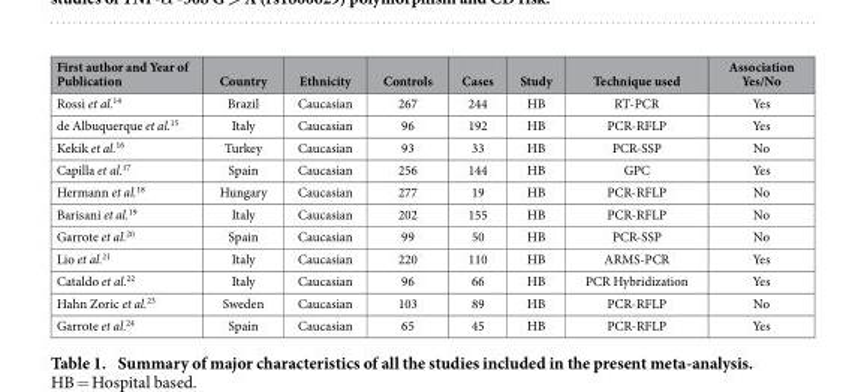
<table><thead><tr><td>First author and Year of Publication</td><td>Country</td><td>Ethnicity</td><td>Controls</td><td>Cases</td><td>Study</td><td>Technique used</td><td>Association Yes/No</td></tr></thead><tbody><tr><td>Rossi et al.<sup>14</sup></td><td>Brazil</td><td>Caucasian</td><td>267</td><td>244</td><td>HB</td><td>RT-PCR</td><td>Yes</td></tr><tr><td>de Albuquerque et al.<sup>15</sup></td><td>Italy</td><td>Caucasian</td><td>96</td><td>192</td><td>HB</td><td>PCR-RFLP</td><td>Yes</td></tr><tr><td>Kekik et al.<sup>16</sup></td><td>Turkey</td><td>Caucasian</td><td>93</td><td>33</td><td>HB</td><td>PCR-SSP</td><td>No</td></tr><tr><td>Capilla et al.<sup>17</sup></td><td>Spain</td><td>Caucasian</td><td>256</td><td>144</td><td>HB</td><td>GPC</td><td>Yes</td></tr><tr><td>Hermann et al.<sup>18</sup></td><td>Hungary</td><td>Caucasian</td><td>277</td><td>19</td><td>HB</td><td>PCR-RFLP</td><td>No</td></tr><tr><td>Barisani et al.<sup>19</sup></td><td>Italy</td><td>Caucasian</td><td>202</td><td>155</td><td>HB</td><td>PCR-RFLP</td><td>No</td></tr><tr><td>Garrote et al.<sup>20</sup></td><td>Spain</td><td>Caucasian</td><td>99</td><td>50</td><td>HB</td><td>PCR-SSP</td><td>No</td></tr><tr><td>Lio et al.<sup>21</sup></td><td>Italy</td><td>Caucasian</td><td>220</td><td>110</td><td>HB</td><td>ARMS-PCR</td><td>Yes</td></tr><tr><td>Cataldo et al.<sup>22</sup></td><td>Italy</td><td>Caucasian</td><td>96</td><td>66</td><td>HB</td><td>PCR Hybridization</td><td>Yes</td></tr><tr><td>Hahn Zoric et al.<sup>23</sup></td><td>Sweden</td><td>Caucasian</td><td>103</td><td>89</td><td>HB</td><td>PCR-RFLP</td><td>No</td></tr><tr><td>Garrote et al.<sup>24</sup></td><td>Spain</td><td>Caucasian</td><td>65</td><td>45</td><td>HB</td><td>PCR-RFLP</td><td>Yes</td></tr></tbody></table>